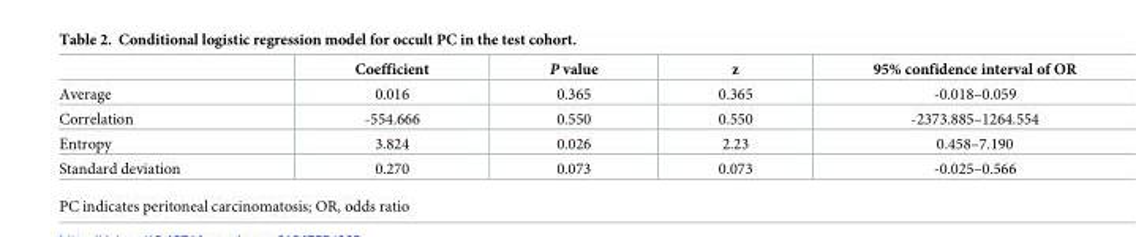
<table><thead><tr><td></td><td>Coefficient</td><td>P value</td><td>z</td><td>95% confidence interval of OR</td></tr></thead><tbody><tr><td>Average</td><td>0.016</td><td>0.365</td><td>0.365</td><td>-0.018–0.059</td></tr><tr><td>Correlation</td><td>-554.666</td><td>0.550</td><td>0.550</td><td>-2373.885–1264.554</td></tr><tr><td>Entropy</td><td>3.824</td><td>0.026</td><td>2.23</td><td>0.458–7.190</td></tr><tr><td>Standard deviation</td><td>0.270</td><td>0.073</td><td>0.073</td><td>-0.025–0.566</td></tr></tbody></table>